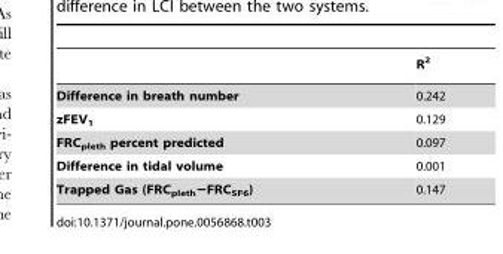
<table><thead><tr><td></td><td>R<sup>2</sup></td></tr></thead><tbody><tr><td>Difference in breath number</td><td>0.242</td></tr><tr><td>zFEV<sub>1</sub></td><td>0.129</td></tr><tr><td>FRC<sub>pleth</sub> percent predicted</td><td>0.097</td></tr><tr><td>Difference in tidal volume</td><td>0.001</td></tr><tr><td>Trapped Gas (FRC<sub>pleth</sub>−FRC<sub>SF6</sub>)</td><td>0.147</td></tr></tbody></table>